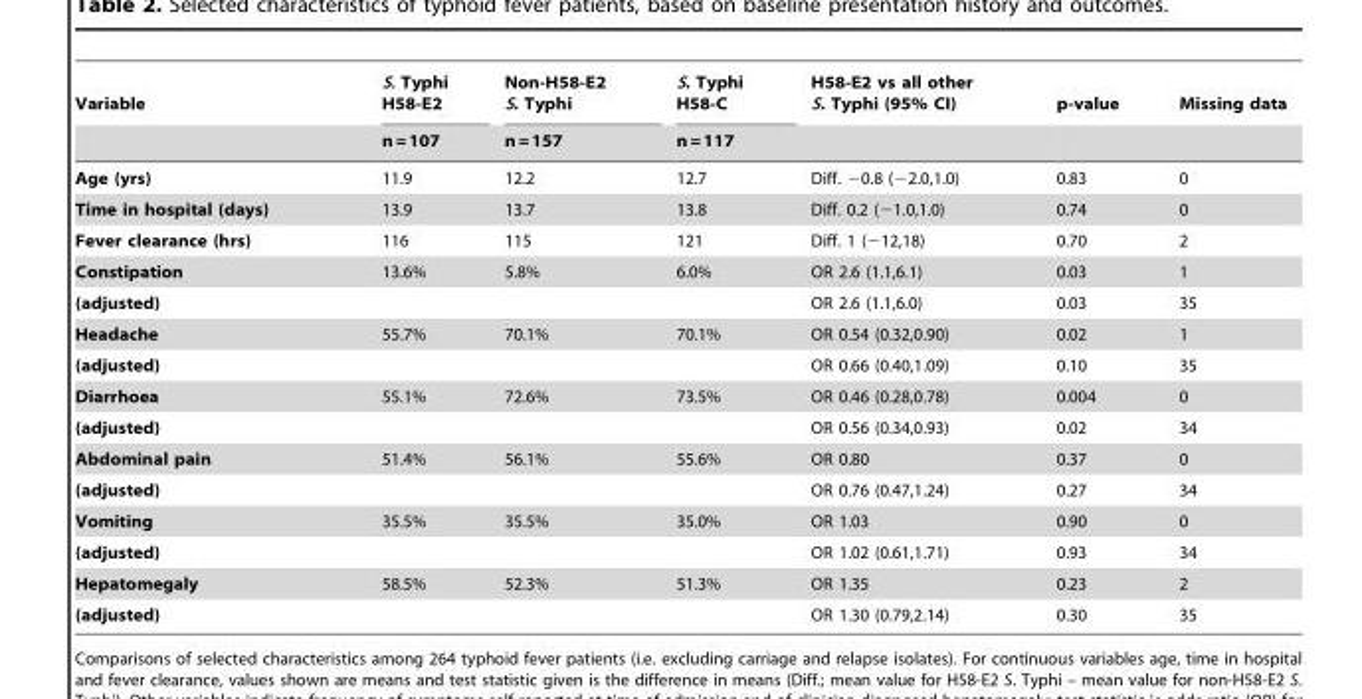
<table><thead><tr><td rowspan="2">Variable</td><td rowspan="2">S. Typhi H58-E2 n = 107</td><td rowspan="2">Non-H58-E2 S. Typhi n = 157</td><td rowspan="2">S. Typhi H58-C n = 117</td><td rowspan="2">H58-E2 vs all other S. Typhi (95% CI)</td><td rowspan="2">p-value</td><td rowspan="2">Missing data</td></tr><tr></tr></thead><tbody><tr><td>Age (yrs)</td><td>11.9</td><td>12.2</td><td>12.7</td><td>Diff. −0.8 (−2.0,1.0)</td><td>0.83</td><td>0</td></tr><tr><td>Time in hospital (days)</td><td>13.9</td><td>13.7</td><td>13.8</td><td>Diff. 0.2 (−1.0,1.0)</td><td>0.74</td><td>0</td></tr><tr><td>Fever clearance (hrs)</td><td>116</td><td>115</td><td>121</td><td>Diff. 1 (−12,18)</td><td>0.70</td><td>2</td></tr><tr><td>Constipation</td><td>13.6%</td><td>5.8%</td><td>6.0%</td><td>OR 2.6 (1.1,6.1)</td><td>0.03</td><td>1</td></tr><tr><td>(adjusted)</td><td></td><td></td><td></td><td>OR 2.6 (1.1,6.0)</td><td>0.03</td><td>35</td></tr><tr><td>Headache</td><td>55.7%</td><td>70.1%</td><td>70.1%</td><td>OR 0.54 (0.32,0.90)</td><td>0.02</td><td>1</td></tr><tr><td>(adjusted)</td><td></td><td></td><td></td><td>OR 0.66 (0.40,1.09)</td><td>0.10</td><td>35</td></tr><tr><td>Diarrhoea</td><td>55.1%</td><td>72.6%</td><td>73.5%</td><td>OR 0.46 (0.28,0.78)</td><td>0.004</td><td>0</td></tr><tr><td>(adjusted)</td><td></td><td></td><td></td><td>OR 0.56 (0.34,0.93)</td><td>0.02</td><td>34</td></tr><tr><td>Abdominal pain</td><td>51.4%</td><td>56.1%</td><td>55.6%</td><td>OR 0.80</td><td>0.37</td><td>0</td></tr><tr><td>(adjusted)</td><td></td><td></td><td></td><td>OR 0.76 (0.47,1.24)</td><td>0.27</td><td>34</td></tr><tr><td>Vomiting</td><td>35.5%</td><td>35.5%</td><td>35.0%</td><td>OR 1.03</td><td>0.90</td><td>0</td></tr><tr><td>(adjusted)</td><td></td><td></td><td></td><td>OR 1.02 (0.61,1.71)</td><td>0.93</td><td>34</td></tr><tr><td>Hepatomegaly</td><td>58.5%</td><td>52.3%</td><td>51.3%</td><td>OR 1.35</td><td>0.23</td><td>2</td></tr><tr><td>(adjusted)</td><td></td><td></td><td></td><td>OR 1.30 (0.79,2.14)</td><td>0.30</td><td>35</td></tr></tbody></table>